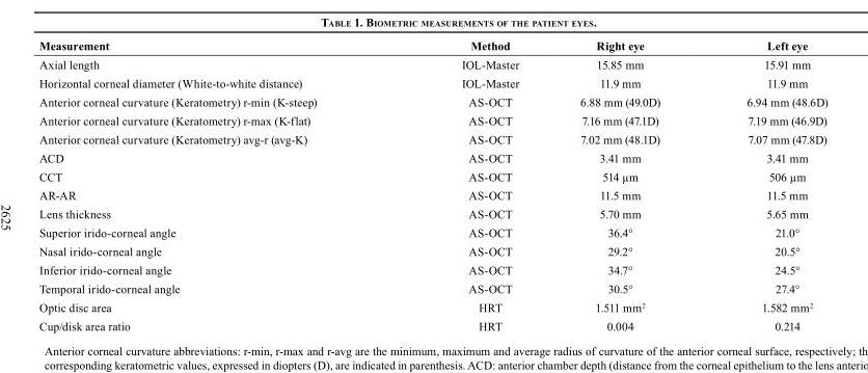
<table><thead><tr><td>Measurement</td><td>Method</td><td>Right eye</td><td>Left eye</td></tr></thead><tbody><tr><td>Axial length</td><td>IOL-Master</td><td>15.85 mm</td><td>15.91 mm</td></tr><tr><td>Horizontal corneal diameter (White-to-white distance)</td><td>IOL-Master</td><td>11.9 mm</td><td>11.9 mm</td></tr><tr><td>Anterior corneal curvature (Keratometry) r-min (K-steep)</td><td>AS-OCT</td><td>6.88 mm (49.0D)</td><td>6.94 mm (48.6D)</td></tr><tr><td>Anterior corneal curvature (Keratometry) r-max (K-flat)</td><td>AS-OCT</td><td>7.16 mm (47.1D)</td><td>7.19 mm (46.9D)</td></tr><tr><td>Anterior corneal curvature (Keratometry) avg-r (avg-K)</td><td>AS-OCT</td><td>7.02 mm (48.1D)</td><td>7.07 mm (47.8D)</td></tr><tr><td>ACD</td><td>AS-OCT</td><td>3.41 mm</td><td>3.41 mm</td></tr><tr><td>CCT</td><td>AS-OCT</td><td>514 µm</td><td>506 µm</td></tr><tr><td>AR-AR</td><td>AS-OCT</td><td>11.5 mm</td><td>11.5 mm</td></tr><tr><td>Lens thickness</td><td>AS-OCT</td><td>5.70 mm</td><td>5.65 mm</td></tr><tr><td>Superior irido-corneal angle</td><td>AS-OCT</td><td>36.4°</td><td>21.0°</td></tr><tr><td>Nasal irido-corneal angle</td><td>AS-OCT</td><td>29.2°</td><td>20.5°</td></tr><tr><td>Inferior irido-corneal angle</td><td>AS-OCT</td><td>34.7°</td><td>24.5°</td></tr><tr><td>Temporal irido-corneal angle</td><td>AS-OCT</td><td>30.5°</td><td>27.4°</td></tr><tr><td>Optic disc area</td><td>HRT</td><td>1.511 mm<sup>2</sup></td><td>1.582 mm<sup>2</sup></td></tr><tr><td>Cup/disk area ratio</td><td>HRT</td><td>0.004</td><td>0.214</td></tr></tbody></table>